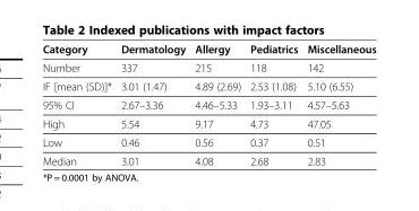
<table><thead><tr><td>Category</td><td>Dermatology</td><td>Allergy</td><td>Pediatrics</td><td>Miscellaneous</td></tr></thead><tbody><tr><td>Number</td><td>337</td><td>215</td><td>118</td><td>142</td></tr><tr><td>IF [mean (SD)]*</td><td>3.01 (1.47)</td><td>4.89 (2.69)</td><td>2.53 (1.08)</td><td>5.10 (6.55)</td></tr><tr><td>95% CI</td><td>2.67–3.36</td><td>4.46–5.33</td><td>1.93–3.11</td><td>4.57–5.63</td></tr><tr><td>High</td><td>5.54</td><td>9.17</td><td>4.73</td><td>47.05</td></tr><tr><td>Low</td><td>0.46</td><td>0.56</td><td>0.37</td><td>0.51</td></tr><tr><td>Median</td><td>3.01</td><td>4.08</td><td>2.68</td><td>2.83</td></tr></tbody></table>